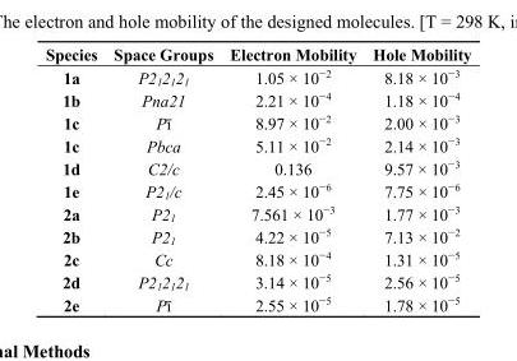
<table><thead><tr><td>Species</td><td>Space Groups</td><td>Electron Mobility</td><td>Hole Mobility</td></tr></thead><tbody><tr><td>1a</td><td>P2<sub>1</sub>2<sub>1</sub>2<sub>1</sub></td><td>1.05 × 10<sup>−2</sup></td><td>8.18 × 10<sup>−3</sup></td></tr><tr><td>1b</td><td>Pna21</td><td>2.21 × 10<sup>−4</sup></td><td>1.18 × 10<sup>−4</sup></td></tr><tr><td>1c</td><td>Pī</td><td>8.97 × 10<sup>−2</sup></td><td>2.00 × 10<sup>−3</sup></td></tr><tr><td>1c</td><td>Pbca</td><td>5.11 × 10<sup>−2</sup></td><td>2.14 × 10<sup>−3</sup></td></tr><tr><td>1d</td><td>C2/c</td><td>0.136</td><td>9.57 × 10<sup>−3</sup></td></tr><tr><td>1e</td><td>P2<sub>1</sub>/c</td><td>2.45 × 10<sup>−6</sup></td><td>7.75 × 10<sup>−6</sup></td></tr><tr><td>2a</td><td>P2<sub>1</sub></td><td>7.561 × 10<sup>−3</sup></td><td>1.77 × 10<sup>−3</sup></td></tr><tr><td>2b</td><td>P2<sub>1</sub></td><td>4.22 × 10<sup>−5</sup></td><td>7.13 × 10<sup>−2</sup></td></tr><tr><td>2c</td><td>Cc</td><td>8.18 × 10<sup>−4</sup></td><td>1.31 × 10<sup>−5</sup></td></tr><tr><td>2d</td><td>P2<sub>1</sub>2<sub>1</sub>2<sub>1</sub></td><td>3.14 × 10<sup>−5</sup></td><td>2.56 × 10<sup>−5</sup></td></tr><tr><td>2e</td><td>Pī</td><td>2.55 × 10<sup>−5</sup></td><td>1.78 × 10<sup>−5</sup></td></tr></tbody></table>